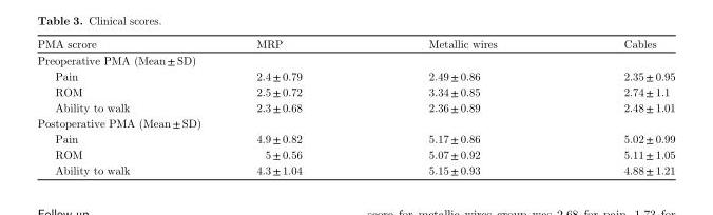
<table><thead><tr><td>PMA scrore</td><td>MRP</td><td>Metallic wires</td><td>Cables</td></tr></thead><tbody><tr><td colspan="4">Preoperative PMA (Mean ± SD)</td></tr><tr><td>Pain</td><td>2.4 ± 0.79</td><td>2.49 ± 0.86</td><td>2.35 ± 0.95</td></tr><tr><td>ROM</td><td>2.5 ± 0.72</td><td>3.34 ± 0.85</td><td>2.74 ± 1.1</td></tr><tr><td>Ability to walk</td><td>2.3 ± 0.68</td><td>2.36 ± 0.89</td><td>2.48 ± 1.01</td></tr><tr><td colspan="4">Postoperative PMA (Mean ± SD)</td></tr><tr><td>Pain</td><td>4.9 ± 0.82</td><td>5.17 ± 0.86</td><td>5.02 ± 0.99</td></tr><tr><td>ROM</td><td>5 ± 0.56</td><td>5.07 ± 0.92</td><td>5.11 ± 1.05</td></tr><tr><td>Ability to walk</td><td>4.3 ± 1.04</td><td>5.15 ± 0.93</td><td>4.88 ± 1.21</td></tr></tbody></table>